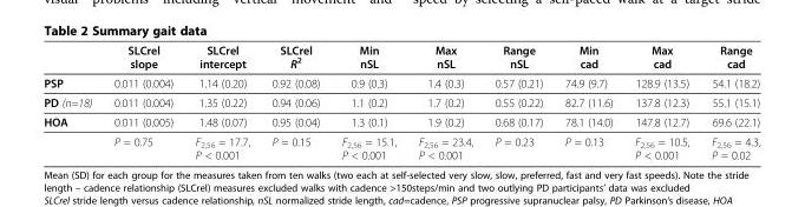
<table><thead><tr><td></td><td>SLCrel slope</td><td>SLCrel intercept</td><td>SLCrel R<sup>2</sup></td><td>Min nSL</td><td>Max nSL</td><td>Range nSL</td><td>Min cad</td><td>Max cad</td><td>Range cad</td></tr></thead><tbody><tr><td>PSP</td><td>0.011 (0.004)</td><td>1.14 (0.20)</td><td>0.92 (0.08)</td><td>0.9 (0.3)</td><td>1.4 (0.3)</td><td>0.57 (0.21)</td><td>74.9 (9.7)</td><td>128.9 (13.5)</td><td>54.1 (18.2)</td></tr><tr><td>PD (n=18)</td><td>0.011 (0.004)</td><td>1.35 (0.22)</td><td>0.94 (0.06)</td><td>1.1 (0.2)</td><td>1.7 (0.2)</td><td>0.55 (0.22)</td><td>82.7 (11.6)</td><td>137.8 (12.3)</td><td>55.1 (15.1)</td></tr><tr><td rowspan="2">HOA</td><td>0.011 (0.005)</td><td>1.48 (0.07)</td><td>0.95 (0.04)</td><td>1.3 (0.1)</td><td>1.9 (0.2)</td><td>0.68 (0.17)</td><td>78.1 (14.0)</td><td>147.8 (12.7)</td><td>69.6 (22.1)</td></tr><tr><td>P = 0.75</td><td>F<sub>2,56</sub> = 17.7, P &lt; 0.001</td><td>P = 0.15</td><td>F<sub>2,56</sub> = 15.1, P &lt; 0.001</td><td>F<sub>2,56</sub> = 23.4, P &lt; 0.001</td><td>P = 0.23</td><td>P = 0.13</td><td>F<sub>2,56</sub> = 10.5, P &lt; 0.001</td><td>F<sub>2,56</sub> = 4.3, P = 0.02</td></tr></tbody></table>